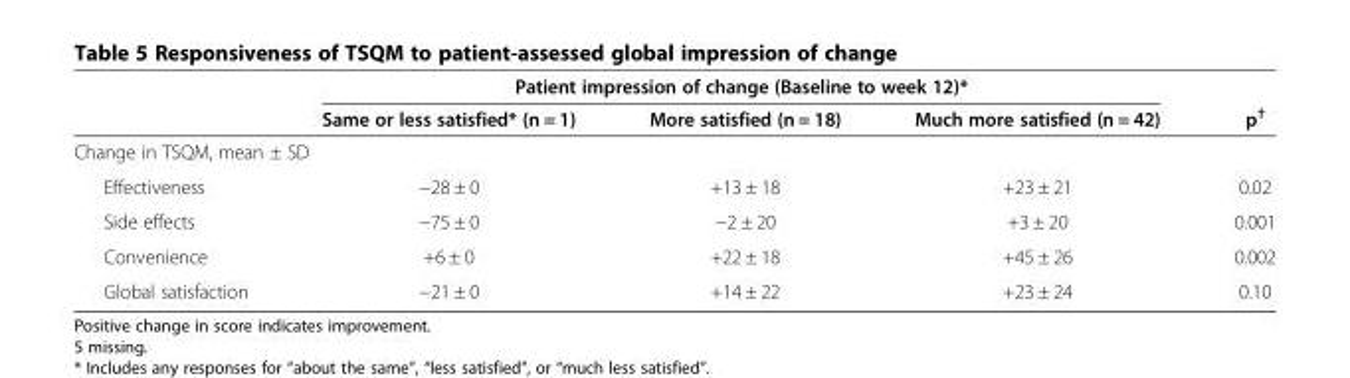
<table><thead><tr><td rowspan="2"></td><td colspan="3">Patient impression of change (Baseline to week 12)*</td><td rowspan="2">p<sup>†</sup></td></tr><tr><td>Same or less satisfied* (n = 1)</td><td>More satisfied (n = 18)</td><td>Much more satisfied (n = 42)</td></tr></thead><tbody><tr><td colspan="5">Change in TSQM, mean ± SD</td></tr><tr><td>Effectiveness</td><td>−28 ± 0</td><td>+13 ± 18</td><td>+23 ± 21</td><td>0.02</td></tr><tr><td>Side effects</td><td>−75 ± 0</td><td>−2 ± 20</td><td>+3 ± 20</td><td>0.001</td></tr><tr><td>Convenience</td><td>+6 ± 0</td><td>+22 ± 18</td><td>+45 ± 26</td><td>0.002</td></tr><tr><td>Global satisfaction</td><td>−21 ± 0</td><td>+14 ± 22</td><td>+23 ± 24</td><td>0.10</td></tr></tbody></table>